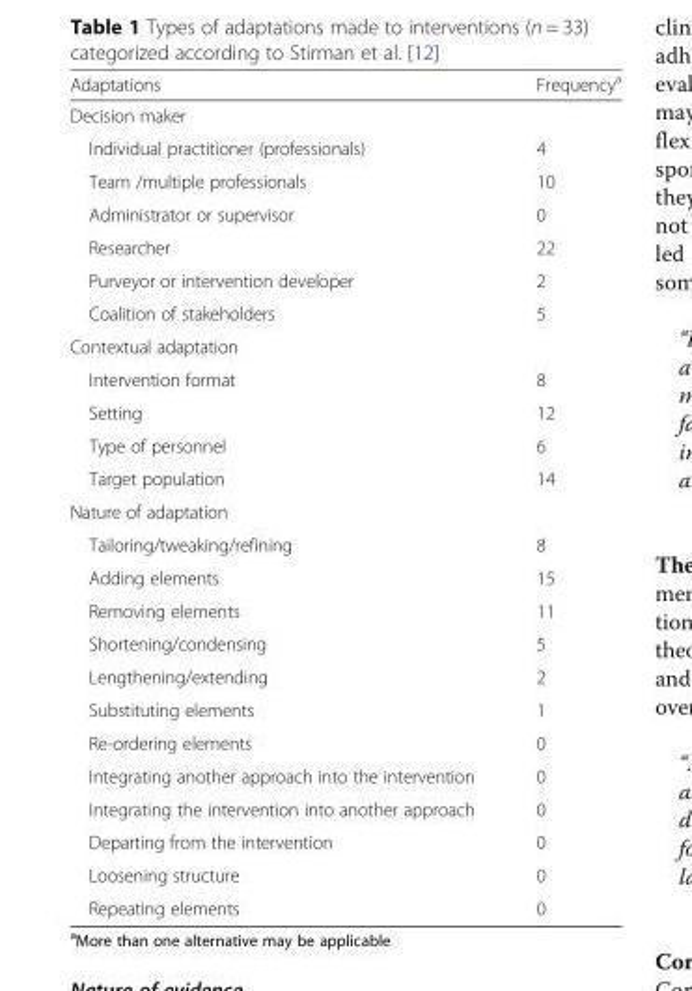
<table><thead><tr><td>Adaptations</td><td>Frequency<sup>a</sup></td></tr></thead><tbody><tr><td colspan="2">Decision maker</td></tr><tr><td>Individual practitioner (professionals)</td><td>4</td></tr><tr><td>Team /multiple professionals</td><td>10</td></tr><tr><td>Administrator or supervisor</td><td>0</td></tr><tr><td>Researcher</td><td>22</td></tr><tr><td>Purveyor or intervention developer</td><td>2</td></tr><tr><td>Coalition of stakeholders</td><td>5</td></tr><tr><td colspan="2">Contextual adaptation</td></tr><tr><td>Intervention format</td><td>8</td></tr><tr><td>Setting</td><td>12</td></tr><tr><td>Type of personnel</td><td>6</td></tr><tr><td>Target population</td><td>14</td></tr><tr><td colspan="2">Nature of adaptation</td></tr><tr><td>Tailoring/tweaking/refining</td><td>8</td></tr><tr><td>Adding elements</td><td>15</td></tr><tr><td>Removing elements</td><td>11</td></tr><tr><td>Shortening/condensing</td><td>5</td></tr><tr><td>Lengthening/extending</td><td>2</td></tr><tr><td>Substituting elements</td><td>1</td></tr><tr><td>Re-ordering elements</td><td>0</td></tr><tr><td>Integrating another approach into the intervention</td><td>0</td></tr><tr><td>Integrating the intervention into another approach</td><td>0</td></tr><tr><td>Departing from the intervention</td><td>0</td></tr><tr><td>Loosening structure</td><td>0</td></tr><tr><td>Repeating elements</td><td>0</td></tr></tbody></table>